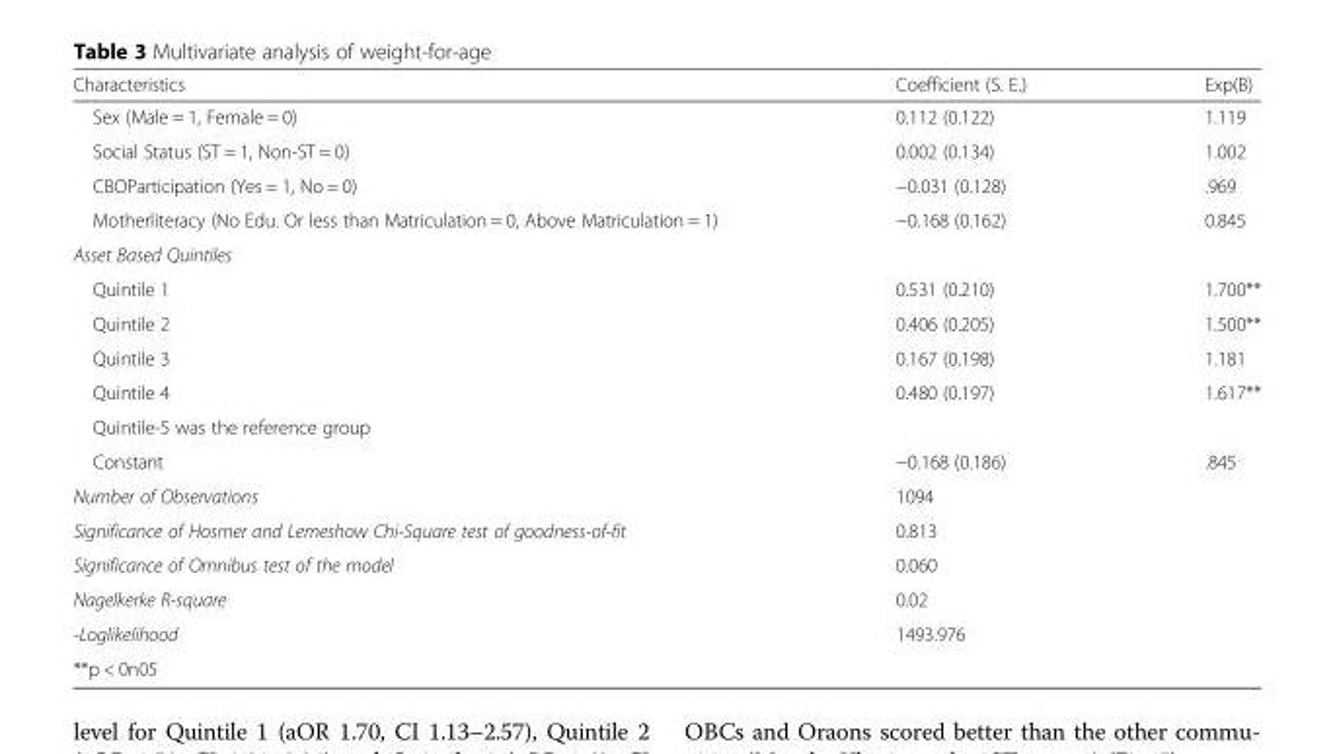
<table><thead><tr><td>Characteristics</td><td>Coefficient (S. E.)</td><td>Exp(B)</td></tr></thead><tbody><tr><td>Sex (Male = 1, Female = 0)</td><td>0.112 (0.122)</td><td>1.119</td></tr><tr><td>Social Status (ST = 1, Non-ST = 0)</td><td>0.002 (0.134)</td><td>1.002</td></tr><tr><td>CBOParticipation (Yes = 1, No = 0)</td><td>−0.031 (0.128)</td><td>.969</td></tr><tr><td>Motherliteracy (No Edu. Or less than Matriculation = 0, Above Matriculation = 1)</td><td>−0.168 (0.162)</td><td>0.845</td></tr><tr><td colspan="3">Asset Based Quintiles</td></tr><tr><td>Quintile 1</td><td>0.531 (0.210)</td><td>1.700**</td></tr><tr><td>Quintile 2</td><td>0.406 (0.205)</td><td>1.500**</td></tr><tr><td>Quintile 3</td><td>0.167 (0.198)</td><td>1.181</td></tr><tr><td>Quintile 4</td><td>0.480 (0.197)</td><td>1.617**</td></tr><tr><td colspan="3">Quintile-5 was the reference group</td></tr><tr><td>Constant</td><td>−0.168 (0.186)</td><td>.845</td></tr><tr><td>Number of Observations</td><td>1094</td><td></td></tr><tr><td>Significance of Hosmer and Lemeshow Chi-Square test of goodness-of-fit</td><td>0.813</td><td></td></tr><tr><td>Significance of Omnibus test of the model</td><td>0.060</td><td></td></tr><tr><td>Nagelkerke R-square</td><td>0.02</td><td></td></tr><tr><td>-Loglikelihood</td><td>1493.976</td><td></td></tr><tr><td>**p &lt; 0n05</td><td></td><td></td></tr></tbody></table>